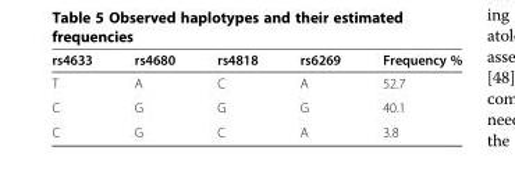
<table><thead><tr><td>rs4633</td><td>rs4680</td><td>rs4818</td><td>rs6269</td><td>Frequency %</td></tr></thead><tbody><tr><td>T</td><td>A</td><td>C</td><td>A</td><td>52.7</td></tr><tr><td>C</td><td>G</td><td>G</td><td>G</td><td>40.1</td></tr><tr><td>C</td><td>G</td><td>C</td><td>A</td><td>3.8</td></tr></tbody></table>